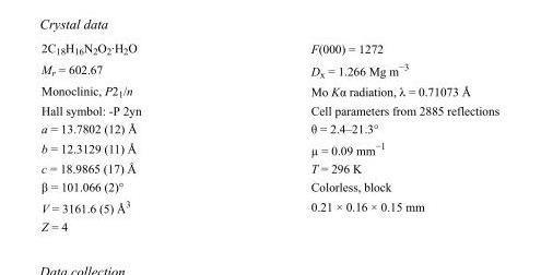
<table><tbody><tr><td>2C<sub>18</sub>H<sub>16</sub>N<sub>2</sub>O<sub>2</sub>·H<sub>2</sub>O</td><td>F(000) = 1272</td></tr><tr><td>M<sub>r</sub> = 602.67</td><td>D<sub>x</sub> = 1.266 Mg m<sup>−3</sup></td></tr><tr><td>Monoclinic, P2<sub>1</sub>/n</td><td>Mo Kα radiation, λ = 0.71073 Å</td></tr><tr><td>Hall symbol: -P 2yn</td><td>Cell parameters from 2885 reflections</td></tr><tr><td>a = 13.7802 (12) Å</td><td>θ = 2.4–21.3°</td></tr><tr><td>b = 12.3129 (11) Å</td><td>µ = 0.09 mm<sup>−1</sup></td></tr><tr><td>c = 18.9865 (17) Å</td><td>T = 296 K</td></tr><tr><td>β = 101.066 (2)°</td><td>Colorless, block</td></tr><tr><td>V = 3161.6 (5) Å<sup>3</sup></td><td>0.21 × 0.16 × 0.15 mm</td></tr><tr><td>Z = 4</td><td></td></tr></tbody></table>